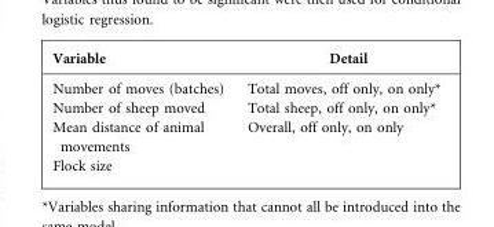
<table><thead><tr><td>Variable</td><td>Detail</td></tr></thead><tbody><tr><td>Number of moves (batches)</td><td>Total moves, off only, on only*</td></tr><tr><td>Number of sheep moved</td><td>Total sheep, off only, on only*</td></tr><tr><td>Mean distance of animal movements</td><td>Overall, off only, on only</td></tr><tr><td>Flock size</td><td></td></tr></tbody></table>